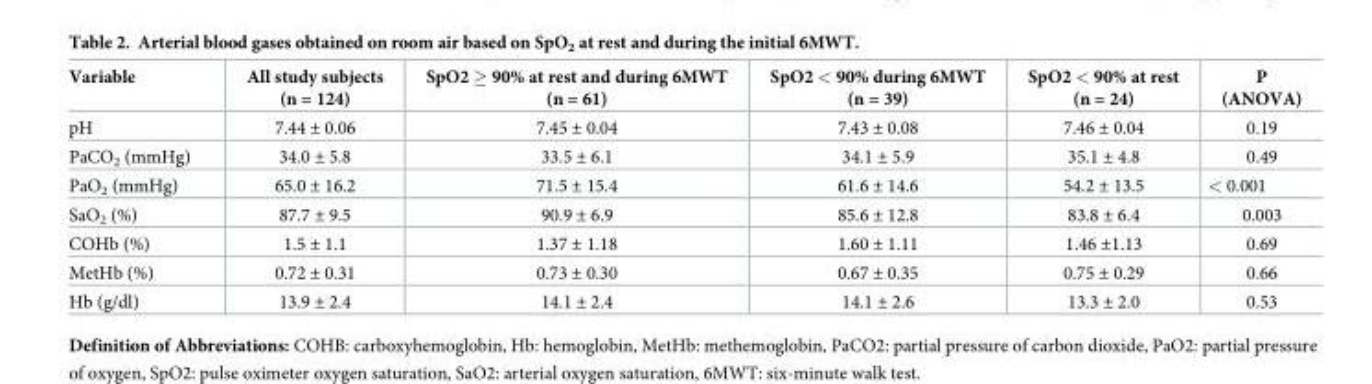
<table><thead><tr><td>Variable</td><td>All study subjects (n = 124)</td><td>SpO2 ≥ 90% at rest and during 6MWT (n = 61)</td><td>SpO2 &lt; 90% during 6MWT (n = 39)</td><td>SpO2 &lt; 90% at rest (n = 24)</td><td>P (ANOVA)</td></tr></thead><tbody><tr><td>pH</td><td>7.44 ± 0.06</td><td>7.45 ± 0.04</td><td>7.43 ± 0.08</td><td>7.46 ± 0.04</td><td>0.19</td></tr><tr><td>PaCO<sub>2</sub> (mmHg)</td><td>34.0 ± 5.8</td><td>33.5 ± 6.1</td><td>34.1 ± 5.9</td><td>35.1 ± 4.8</td><td>0.49</td></tr><tr><td>PaO<sub>2</sub> (mmHg)</td><td>65.0 ± 16.2</td><td>71.5 ± 15.4</td><td>61.6 ± 14.6</td><td>54.2 ± 13.5</td><td>&lt; 0.001</td></tr><tr><td>SaO<sub>2</sub> (%)</td><td>87.7 ± 9.5</td><td>90.9 ± 6.9</td><td>85.6 ± 12.8</td><td>83.8 ± 6.4</td><td>0.003</td></tr><tr><td>COHb (%)</td><td>1.5 ± 1.1</td><td>1.37 ± 1.18</td><td>1.60 ± 1.11</td><td>1.46 ±1.13</td><td>0.69</td></tr><tr><td>MetHb (%)</td><td>0.72 ± 0.31</td><td>0.73 ± 0.30</td><td>0.67 ± 0.35</td><td>0.75 ± 0.29</td><td>0.66</td></tr><tr><td>Hb (g/dl)</td><td>13.9 ± 2.4</td><td>14.1 ± 2.4</td><td>14.1 ± 2.6</td><td>13.3 ± 2.0</td><td>0.53</td></tr></tbody></table>